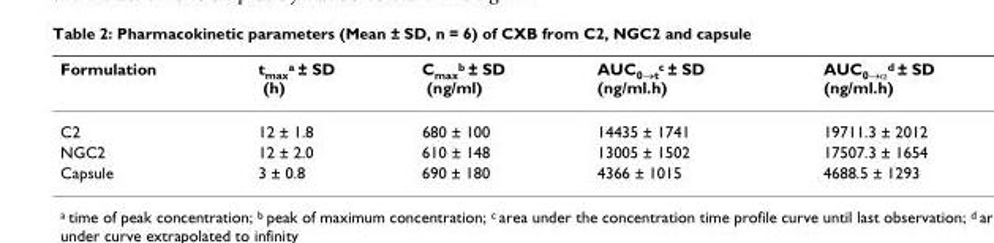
<table><thead><tr><td>Formulation</td><td>t<sub>max</sub><sup>a</sup> ± SD (h)</td><td>C<sub>max</sub><sup>b</sup> ± SD (ng/ml)</td><td>AUC<sub>0→t</sub><sup>c</sup> ± SD (ng/ml.h)</td><td>AUC<sub>0→α</sub><sup>d</sup> ± SD (ng/ml.h)</td></tr></thead><tbody><tr><td>C2</td><td>12 ± 1.8</td><td>680 ± 100</td><td>14435 ± 1741</td><td>19711.3 ± 2012</td></tr><tr><td>NGC2</td><td>12 ± 2.0</td><td>610 ± 148</td><td>13005 ± 1502</td><td>17507.3 ± 1654</td></tr><tr><td>Capsule</td><td>3 ± 0.8</td><td>690 ± 180</td><td>4366 ± 1015</td><td>4688.5 ± 1293</td></tr></tbody></table>